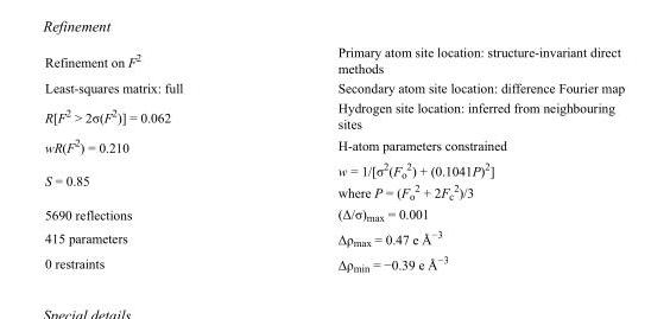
<table><tbody><tr><td>Refinement on F<sup>2</sup></td><td>Primary atom site location: structure-invariant direct methods</td></tr><tr><td>Least-squares matrix: full</td><td>Secondary atom site location: difference Fourier map</td></tr><tr><td>R[F<sup>2</sup> &gt; 2σ(F<sup>2</sup>)] = 0.062</td><td>Hydrogen site location: inferred from neighbouring sites</td></tr><tr><td>wR(F<sup>2</sup>) = 0.210</td><td>H-atom parameters constrained</td></tr><tr><td>S = 0.85</td><td>w = 1/[σ<sup>2</sup>(F<sub>o</sub> <sup>2</sup>) + (0.1041P)<sup>2</sup>] where P = (F<sub>o</sub> <sup>2</sup> + 2F<sub>c</sub> <sup>2</sup>)/3</td></tr><tr><td>5690 reflections</td><td>(Δ/σ)<sub>max</sub> = 0.001</td></tr><tr><td>415 parameters</td><td>Δρ<sub>max</sub> = 0.47 e Å<sup>−3</sup></td></tr><tr><td>0 restraints</td><td>Δρ<sub>min</sub> = −0.39 e Å<sup>−3</sup></td></tr></tbody></table>